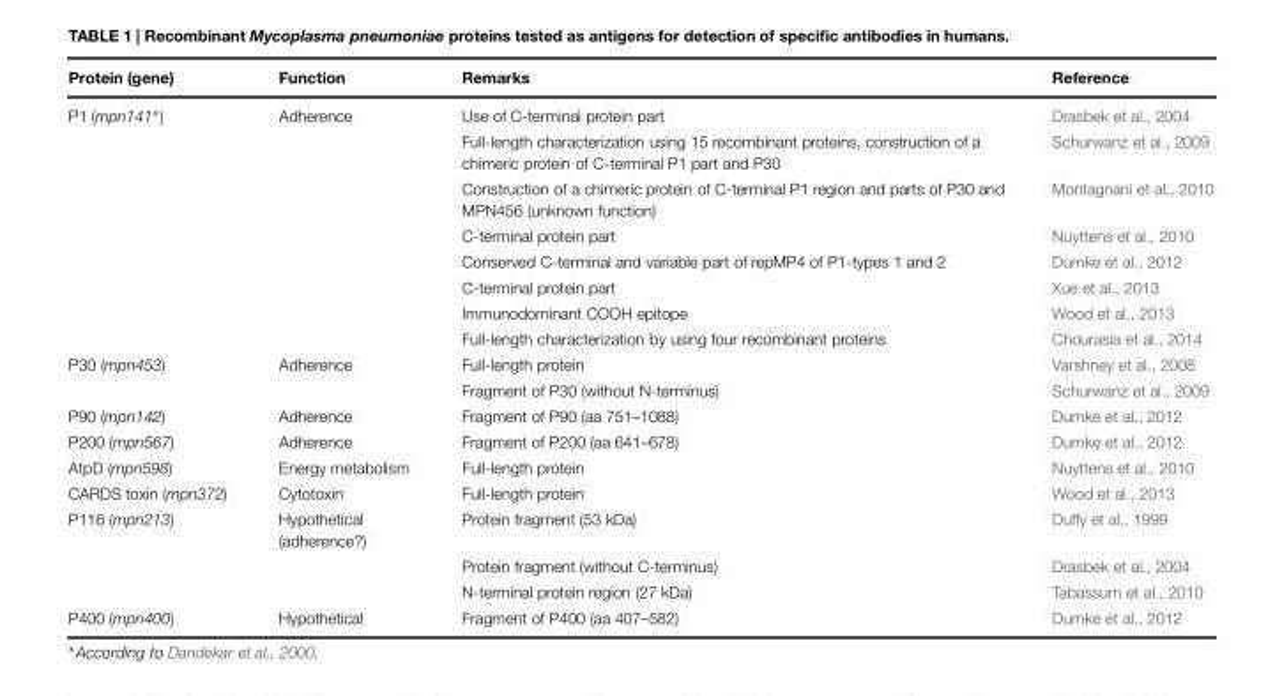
<table><thead><tr><td>Protein (gene)</td><td>Function</td><td>Remarks</td><td>Reference</td></tr></thead><tbody><tr><td rowspan="8">P1 (mpn141∗)</td><td>Adherence</td><td>Use of C-terminal protein part</td><td>Drasbek et al., 2004</td></tr><tr><td></td><td>Full-length characterization using 15 recombinant proteins, construction of a chimeric protein of C-terminal P1 part and P30</td><td>Schurwanz et al., 2009</td></tr><tr><td></td><td>Construction of a chimeric protein of C-terminal P1 region and parts of P30 and MPN456 (unknown function)</td><td>Montagnani et al., 2010</td></tr><tr><td></td><td>C-terminal protein part</td><td>Nuyttens et al., 2010</td></tr><tr><td></td><td>Conserved C-terminal and variable part of repMP4 of P1-types 1 and 2</td><td>Dumke et al., 2012</td></tr><tr><td></td><td>C-terminal protein part</td><td>Xue et al., 2013</td></tr><tr><td></td><td>Immunodominant COOH epitope</td><td>Wood et al., 2013</td></tr><tr><td></td><td>Full-length characterization by using four recombinant proteins</td><td>Chourasia et al., 2014</td></tr><tr><td rowspan="2">P30 (mpn453)</td><td>Adherence</td><td>Full-length protein</td><td>Varshney et al., 2008</td></tr><tr><td></td><td>Fragment of P30 (without N-terminus)</td><td>Schurwanz et al., 2009</td></tr><tr><td>P90 (mpn142)</td><td>Adherence</td><td>Fragment of P90 (aa 751–1088)</td><td>Dumke et al., 2012</td></tr><tr><td>P200 (mpn567)</td><td>Adherence</td><td>Fragment of P200 (aa 641–678)</td><td>Dumke et al., 2012</td></tr><tr><td>AtpD (mpn598)</td><td>Energy metabolism</td><td>Full-length protein</td><td>Nuyttens et al., 2010</td></tr><tr><td>CARDS toxin (mpn372)</td><td>Cytotoxin</td><td>Full-length protein</td><td>Wood et al., 2013</td></tr><tr><td rowspan="3">P116 (mpn213)</td><td>Hypothetical (adherence?)</td><td>Protein fragment (53 kDa)</td><td>Duffy et al., 1999</td></tr><tr><td></td><td>Protein fragment (without C-terminus)</td><td>Drasbek et al., 2004</td></tr><tr><td></td><td>N-terminal protein region (27 kDa)</td><td>Tabassum et al., 2010</td></tr><tr><td>P400 (mpn400)</td><td>Hypothetical</td><td>Fragment of P400 (aa 407–582)</td><td>Dumke et al., 2012</td></tr></tbody></table>